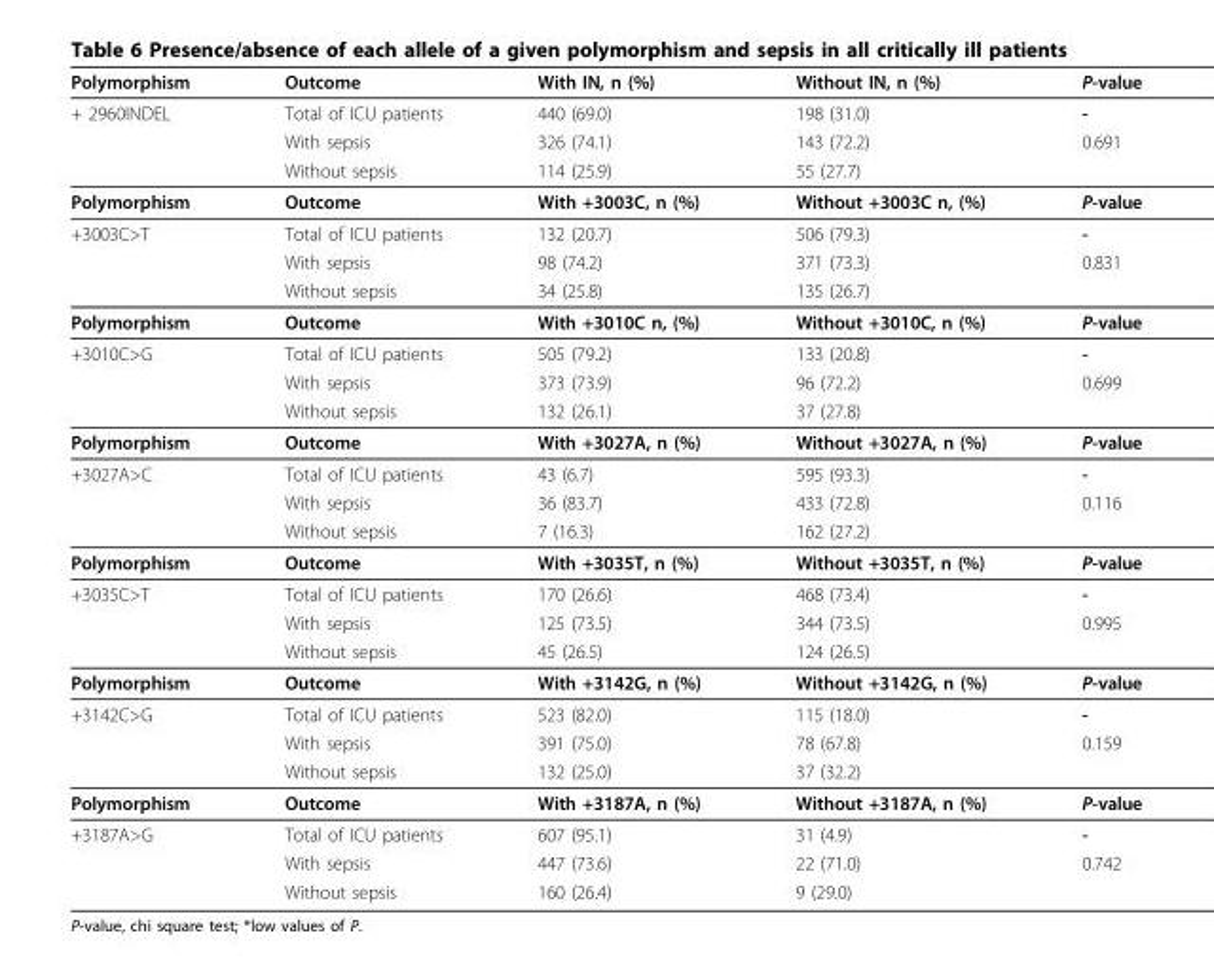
<table><thead><tr><td>Polymorphism</td><td>Outcome</td><td>With IN, n (%)</td><td>Without IN, n (%)</td><td>P-value</td></tr></thead><tbody><tr><td rowspan="3">+ 2960INDEL</td><td>Total of ICU patients</td><td>440 (69.0)</td><td>198 (31.0)</td><td>-</td></tr><tr><td>With sepsis</td><td>326 (74.1)</td><td>143 (72.2)</td><td>0.691</td></tr><tr><td>Without sepsis</td><td>114 (25.9)</td><td>55 (27.7)</td><td></td></tr><tr><td>Polymorphism</td><td>Outcome</td><td>With +3003C, n (%)</td><td>Without +3003C n, (%)</td><td>P-value</td></tr><tr><td rowspan="3">+3003C&gt;T</td><td>Total of ICU patients</td><td>132 (20.7)</td><td>506 (79.3)</td><td>-</td></tr><tr><td>With sepsis</td><td>98 (74.2)</td><td>371 (73.3)</td><td>0.831</td></tr><tr><td>Without sepsis</td><td>34 (25.8)</td><td>135 (26.7)</td><td></td></tr><tr><td>Polymorphism</td><td>Outcome</td><td>With +3010C n, (%)</td><td>Without +3010C, n (%)</td><td>P-value</td></tr><tr><td rowspan="3">+3010C&gt;G</td><td>Total of ICU patients</td><td>505 (79.2)</td><td>133 (20.8)</td><td>-</td></tr><tr><td>With sepsis</td><td>373 (73.9)</td><td>96 (72.2)</td><td>0.699</td></tr><tr><td>Without sepsis</td><td>132 (26.1)</td><td>37 (27.8)</td><td></td></tr><tr><td>Polymorphism</td><td>Outcome</td><td>With +3027A, n (%)</td><td>Without +3027A, n (%)</td><td>P-value</td></tr><tr><td rowspan="3">+3027A&gt;C</td><td>Total of ICU patients</td><td>43 (6.7)</td><td>595 (93.3)</td><td>-</td></tr><tr><td>With sepsis</td><td>36 (83.7)</td><td>433 (72.8)</td><td>0.116</td></tr><tr><td>Without sepsis</td><td>7 (16.3)</td><td>162 (27.2)</td><td></td></tr><tr><td>Polymorphism</td><td>Outcome</td><td>With +3035T, n (%)</td><td>Without +3035T, n (%)</td><td>P-value</td></tr><tr><td rowspan="3">+3035C&gt;T</td><td>Total of ICU patients</td><td>170 (26.6)</td><td>468 (73.4)</td><td>-</td></tr><tr><td>With sepsis</td><td>125 (73.5)</td><td>344 (73.5)</td><td>0.995</td></tr><tr><td>Without sepsis</td><td>45 (26.5)</td><td>124 (26.5)</td><td></td></tr><tr><td>Polymorphism</td><td>Outcome</td><td>With +3142G, n (%)</td><td>Without +3142G, n (%)</td><td>P-value</td></tr><tr><td rowspan="3">+3142C&gt;G</td><td>Total of ICU patients</td><td>523 (82.0)</td><td>115 (18.0)</td><td>-</td></tr><tr><td>With sepsis</td><td>391 (75.0)</td><td>78 (67.8)</td><td>0.159</td></tr><tr><td>Without sepsis</td><td>132 (25.0)</td><td>37 (32.2)</td><td></td></tr><tr><td>Polymorphism</td><td>Outcome</td><td>With +3187A, n (%)</td><td>Without +3187A, n (%)</td><td>P-value</td></tr><tr><td rowspan="3">+3187A&gt;G</td><td>Total of ICU patients</td><td>607 (95.1)</td><td>31 (4.9)</td><td>-</td></tr><tr><td>With sepsis</td><td>447 (73.6)</td><td>22 (71.0)</td><td>0.742</td></tr><tr><td>Without sepsis</td><td>160 (26.4)</td><td>9 (29.0)</td><td></td></tr></tbody></table>